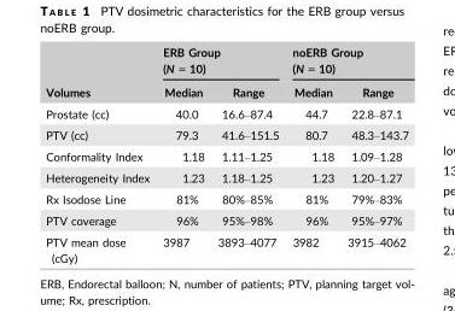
<table><thead><tr><td rowspan="2">Volumes</td><td colspan="2">ERB Group (N = 10)</td><td colspan="2">noERB Group (N = 10)</td></tr><tr><td>Median</td><td>Range</td><td>Median</td><td>Range</td></tr></thead><tbody><tr><td>Prostate (cc)</td><td>40.0</td><td>16.6–87.4</td><td>44.7</td><td>22.8–87.1</td></tr><tr><td>PTV (cc)</td><td>79.3</td><td>41.6–151.5</td><td>80.7</td><td>48.3–143.7</td></tr><tr><td>Conformality Index</td><td>1.18</td><td>1.11–1.25</td><td>1.18</td><td>1.09–1.28</td></tr><tr><td>Heterogeneity Index</td><td>1.23</td><td>1.18–1.25</td><td>1.23</td><td>1.20–1.27</td></tr><tr><td>Rx Isodose Line</td><td>81%</td><td>80%–85%</td><td>81%</td><td>79%–83%</td></tr><tr><td>PTV coverage</td><td>96%</td><td>95%–98%</td><td>96%</td><td>95%–97%</td></tr><tr><td>PTV mean dose (cGy)</td><td>3987</td><td>3893–4077</td><td>3982</td><td>3915–4062</td></tr></tbody></table>